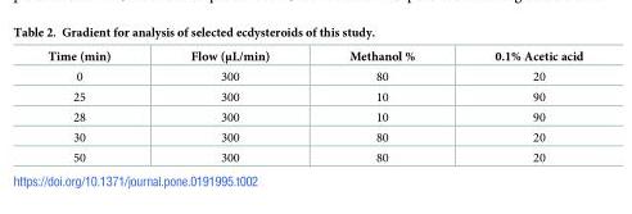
<table><thead><tr><td>Time (min)</td><td>Flow (μL/min)</td><td>Methanol %</td><td>0.1% Acetic acid</td></tr></thead><tbody><tr><td>0</td><td>300</td><td>80</td><td>20</td></tr><tr><td>25</td><td>300</td><td>10</td><td>90</td></tr><tr><td>28</td><td>300</td><td>10</td><td>90</td></tr><tr><td>30</td><td>300</td><td>80</td><td>20</td></tr><tr><td>50</td><td>300</td><td>80</td><td>20</td></tr></tbody></table>